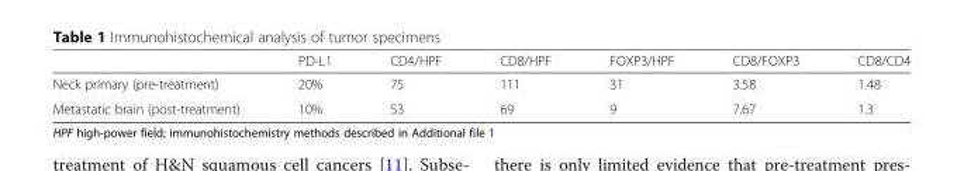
<table><thead><tr><td></td><td>PD-L1</td><td>CD4/HPF</td><td>CD8/HPF</td><td>FOXP3/HPF</td><td>CD8/FOXP3</td><td>CD8/CD4</td></tr></thead><tbody><tr><td>Neck primary (pre-treatment)</td><td>20%</td><td>75</td><td>111</td><td>31</td><td>3.58</td><td>1.48</td></tr><tr><td>Metastatic brain (post-treatment)</td><td>10%</td><td>53</td><td>69</td><td>9</td><td>7.67</td><td>1.3</td></tr></tbody></table>